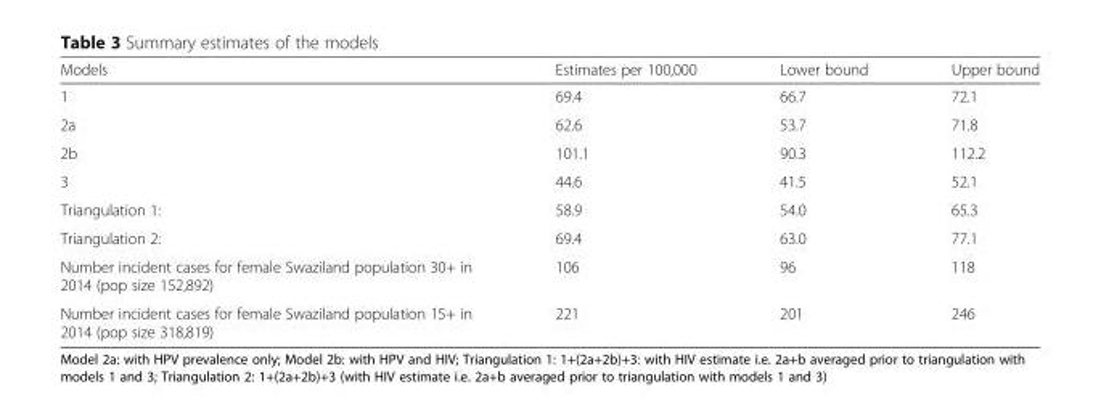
<table><thead><tr><td>Models</td><td>Estimates per 100,000</td><td>Lower bound</td><td>Upper bound</td></tr></thead><tbody><tr><td>1</td><td>69.4</td><td>66.7</td><td>72.1</td></tr><tr><td>2a</td><td>62.6</td><td>53.7</td><td>71.8</td></tr><tr><td>2b</td><td>101.1</td><td>90.3</td><td>112.2</td></tr><tr><td>3</td><td>44.6</td><td>41.5</td><td>52.1</td></tr><tr><td>Triangulation 1:</td><td>58.9</td><td>54.0</td><td>65.3</td></tr><tr><td>Triangulation 2:</td><td>69.4</td><td>63.0</td><td>77.1</td></tr><tr><td>Number incident cases for female Swaziland population 30+ in 2014 (pop size 152,892)</td><td>106</td><td>96</td><td>118</td></tr><tr><td>Number incident cases for female Swaziland population 15+ in 2014 (pop size 318,819)</td><td>221</td><td>201</td><td>246</td></tr></tbody></table>